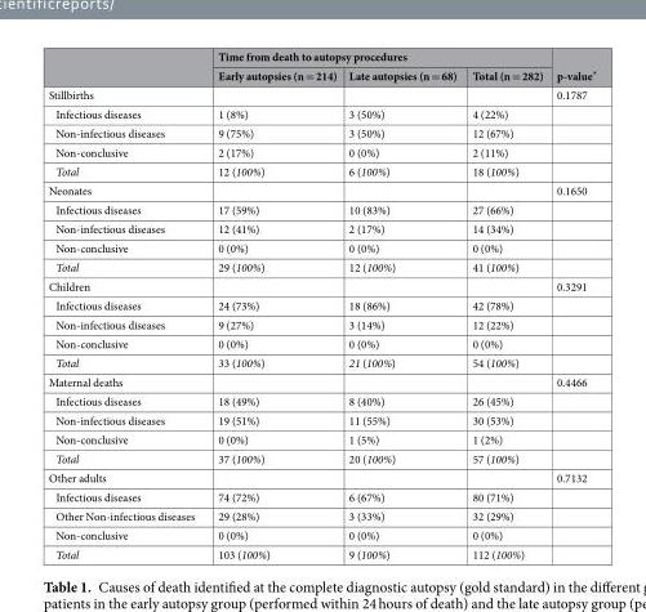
<table><thead><tr><td rowspan="2"></td><td colspan="3">Time from death to autopsy procedures</td><td rowspan="2">p-value*</td></tr><tr><td>Early autopsies (n = 214)</td><td>Late autopsies (n = 68)</td><td>Total (n = 282)</td></tr></thead><tbody><tr><td>Stillbirths</td><td></td><td></td><td></td><td>0.1787</td></tr><tr><td>Infectious diseases</td><td>1 (8%)</td><td>3 (50%)</td><td>4 (22%)</td><td></td></tr><tr><td>Non-infectious diseases</td><td>9 (75%)</td><td>3 (50%)</td><td>12 (67%)</td><td></td></tr><tr><td>Non-conclusive</td><td>2 (17%)</td><td>0 (0%)</td><td>2 (11%)</td><td></td></tr><tr><td>Total</td><td>12 (100%)</td><td>6 (100%)</td><td>18 (100%)</td><td></td></tr><tr><td>Neonates</td><td></td><td></td><td></td><td>0.1650</td></tr><tr><td>Infectious diseases</td><td>17 (59%)</td><td>10 (83%)</td><td>27 (66%)</td><td></td></tr><tr><td>Non-infectious diseases</td><td>12 (41%)</td><td>2 (17%)</td><td>14 (34%)</td><td></td></tr><tr><td>Non-conclusive</td><td>0 (0%)</td><td>0 (0%)</td><td>0 (0%)</td><td></td></tr><tr><td>Total</td><td>29 (100%)</td><td>12 (100%)</td><td>41 (100%)</td><td></td></tr><tr><td>Children</td><td></td><td></td><td></td><td>0.3291</td></tr><tr><td>Infectious diseases</td><td>24 (73%)</td><td>18 (86%)</td><td>42 (78%)</td><td></td></tr><tr><td>Non-infectious diseases</td><td>9 (27%)</td><td>3 (14%)</td><td>12 (22%)</td><td></td></tr><tr><td>Non-conclusive</td><td>0 (0%)</td><td>0 (0%)</td><td>0 (0%)</td><td></td></tr><tr><td>Total</td><td>33 (100%)</td><td>21 (100%)</td><td>54 (100%)</td><td></td></tr><tr><td>Maternal deaths</td><td></td><td></td><td></td><td>0.4466</td></tr><tr><td>Infectious diseases</td><td>18 (49%)</td><td>8 (40%)</td><td>26 (45%)</td><td></td></tr><tr><td>Non-infectious diseases</td><td>19 (51%)</td><td>11 (55%)</td><td>30 (53%)</td><td></td></tr><tr><td>Non-conclusive</td><td>0 (0%)</td><td>1 (5%)</td><td>1 (2%)</td><td></td></tr><tr><td>Total</td><td>37 (100%)</td><td>20 (100%)</td><td>57 (100%)</td><td></td></tr><tr><td>Other adults</td><td></td><td></td><td></td><td>0.7132</td></tr><tr><td>Infectious diseases</td><td>74 (72%)</td><td>6 (67%)</td><td>80 (71%)</td><td></td></tr><tr><td>Other Non-infectious diseases</td><td>29 (28%)</td><td>3 (33%)</td><td>32 (29%)</td><td></td></tr><tr><td>Non-conclusive</td><td>0 (0%)</td><td>0 (0%)</td><td>0 (0%)</td><td></td></tr><tr><td>Total</td><td>103 (100%)</td><td>9 (100%)</td><td>112 (100%)</td><td></td></tr></tbody></table>